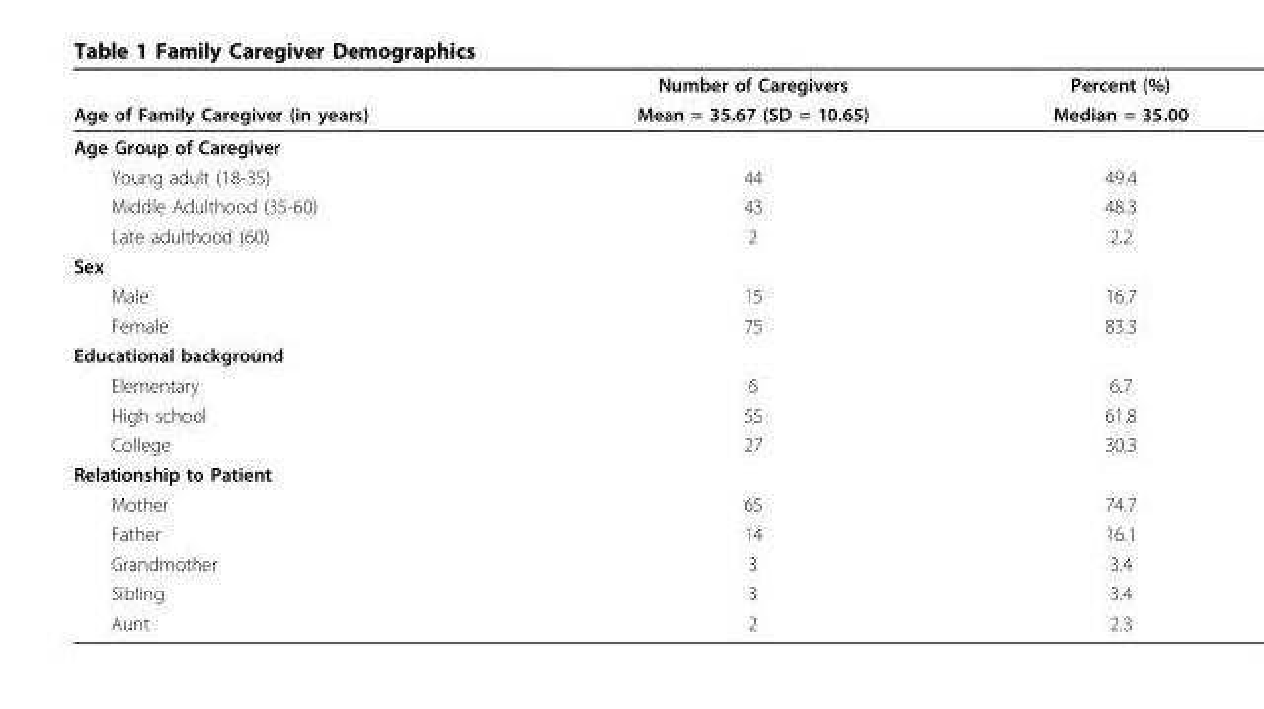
<table><thead><tr><td rowspan="2">Age of Family Caregiver (in years)</td><td rowspan="2">Number of Caregivers Mean = 35.67 (SD = 10.65)</td><td rowspan="2">Percent (%) Median = 35.00</td></tr><tr></tr></thead><tbody><tr><td colspan="3">Age Group of Caregiver</td></tr><tr><td>Young adult (18-35)</td><td>44</td><td>49.4</td></tr><tr><td>Middle Adulthood (35-60)</td><td>43</td><td>48.3</td></tr><tr><td>Late adulthood (60)</td><td>2</td><td>2.2</td></tr><tr><td colspan="3">Sex</td></tr><tr><td>Male</td><td>15</td><td>16.7</td></tr><tr><td>Female</td><td>75</td><td>83.3</td></tr><tr><td colspan="3">Educational background</td></tr><tr><td>Elementary</td><td>6</td><td>6.7</td></tr><tr><td>High school</td><td>55</td><td>61.8</td></tr><tr><td>College</td><td>27</td><td>30.3</td></tr><tr><td colspan="3">Relationship to Patient</td></tr><tr><td>Mother</td><td>65</td><td>74.7</td></tr><tr><td>Father</td><td>14</td><td>16.1</td></tr><tr><td>Grandmother</td><td>3</td><td>3.4</td></tr><tr><td>Sibling</td><td>3</td><td>3.4</td></tr><tr><td>Aunt</td><td>2</td><td>2.3</td></tr></tbody></table>